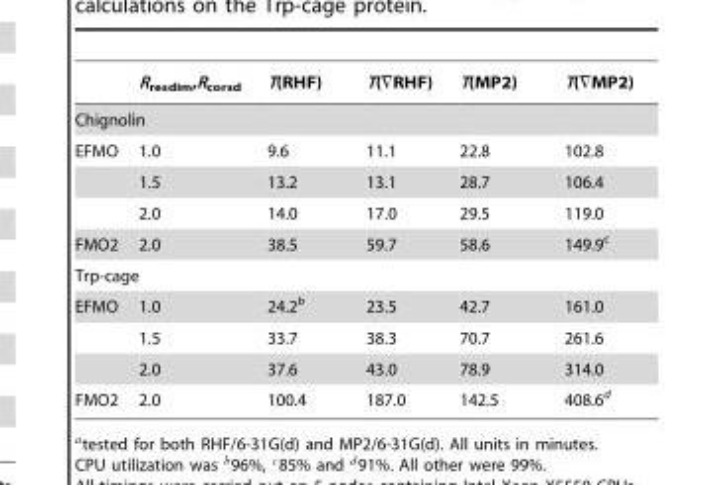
<table><thead><tr><td></td><td>R<sub>resdim</sub>,R<sub>corsd</sub></td><td>T(RHF)</td><td>T(=RHF)</td><td>T(MP2)</td><td>T(=MP2)</td></tr></thead><tbody><tr><td colspan="6">Chignolin</td></tr><tr><td rowspan="3">EFMO</td><td>1.0</td><td>9.6</td><td>11.1</td><td>22.8</td><td>102.8</td></tr><tr><td>1.5</td><td>13.2</td><td>13.1</td><td>28.7</td><td>106.4</td></tr><tr><td>2.0</td><td>14.0</td><td>17.0</td><td>29.5</td><td>119.0</td></tr><tr><td>FMO2</td><td>2.0</td><td>38.5</td><td>59.7</td><td>58.6</td><td>149.9<sup>c</sup></td></tr><tr><td colspan="6">Trp-cage</td></tr><tr><td rowspan="3">EFMO</td><td>1.0</td><td>24.2<sup>b</sup></td><td>23.5</td><td>42.7</td><td>161.0</td></tr><tr><td>1.5</td><td>33.7</td><td>38.3</td><td>70.7</td><td>261.6</td></tr><tr><td>2.0</td><td>37.6</td><td>43.0</td><td>78.9</td><td>314.0</td></tr><tr><td>FMO2</td><td>2.0</td><td>100.4</td><td>187.0</td><td>142.5</td><td>408.6<sup>d</sup></td></tr></tbody></table>